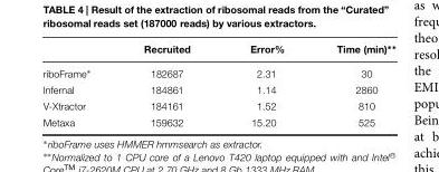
<table><thead><tr><td></td><td>Recruited</td><td>Error%</td><td>Time (min)∗∗</td></tr></thead><tbody><tr><td>riboFrame∗</td><td>182687</td><td>2.31</td><td>30</td></tr><tr><td>Infernal</td><td>184861</td><td>1.14</td><td>2860</td></tr><tr><td>V-Xtractor</td><td>184161</td><td>1.52</td><td>810</td></tr><tr><td>Metaxa</td><td>159632</td><td>15.20</td><td>525</td></tr></tbody></table>